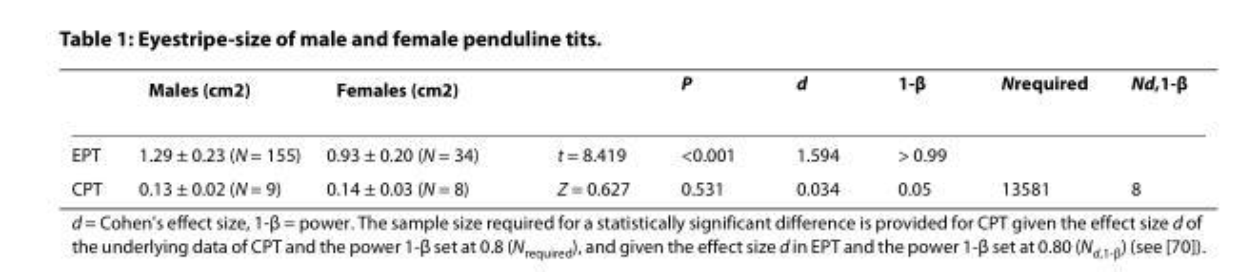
<table><thead><tr><td></td><td>Males (cm<sup>2</sup>)</td><td>Females (cm<sup>2</sup>)</td><td></td><td>P</td><td>d</td><td>1-β</td><td>N<sub>required</sub></td><td>N<sub>d,1-β</sub></td></tr></thead><tbody><tr><td>EPT</td><td>1.29 ± 0.23 (N = 155)</td><td>0.93 ± 0.20 (N = 34)</td><td>t = 8.419</td><td>&lt;0.001</td><td>1.594</td><td>&gt; 0.99</td><td></td><td></td></tr><tr><td>CPT</td><td>0.13 ± 0.02 (N = 9)</td><td>0.14 ± 0.03 (N = 8)</td><td>Z = 0.627</td><td>0.531</td><td>0.034</td><td>0.05</td><td>13581</td><td>8</td></tr></tbody></table>